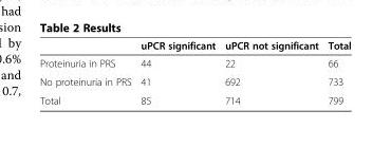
<table><thead><tr><td></td><td>uPCR significant</td><td>uPCR not significant</td><td>Total</td></tr></thead><tbody><tr><td>Proteinuria in PRS</td><td>44</td><td>22</td><td>66</td></tr><tr><td>No proteinuria in PRS</td><td>41</td><td>692</td><td>733</td></tr><tr><td>Total</td><td>85</td><td>714</td><td>799</td></tr></tbody></table>